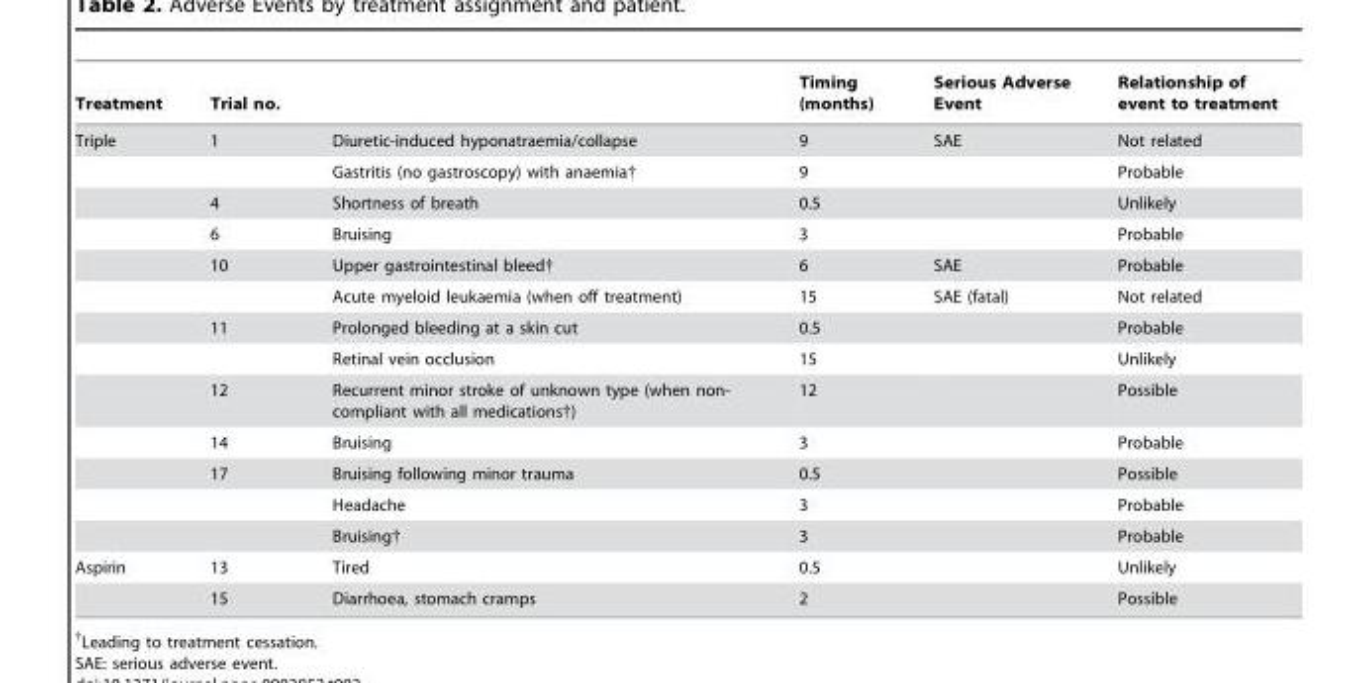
<table><thead><tr><td rowspan="2">Treatment Triple</td><td colspan="2">Trial no.</td><td rowspan="2">Timing (months) 9</td><td rowspan="2">Serious Adverse Event SAE</td><td rowspan="2">Relationship of event to treatment Not related</td></tr><tr><td>1</td><td>Diuretic-induced hyponatraemia/collapse</td></tr></thead><tbody><tr><td></td><td></td><td>Gastritis (no gastroscopy) with anaemia†</td><td>9</td><td></td><td>Probable</td></tr><tr><td></td><td>4</td><td>Shortness of breath</td><td>0.5</td><td></td><td>Unlikely</td></tr><tr><td></td><td>6</td><td>Bruising</td><td>3</td><td></td><td>Probable</td></tr><tr><td></td><td>10</td><td>Upper gastrointestinal bleed†</td><td>6</td><td>SAE</td><td>Probable</td></tr><tr><td></td><td></td><td>Acute myeloid leukaemia (when off treatment)</td><td>15</td><td>SAE (fatal)</td><td>Not related</td></tr><tr><td></td><td>11</td><td>Prolonged bleeding at a skin cut</td><td>0.5</td><td></td><td>Probable</td></tr><tr><td></td><td></td><td>Retinal vein occlusion</td><td>15</td><td></td><td>Unlikely</td></tr><tr><td></td><td>12</td><td>Recurrent minor stroke of unknown type (when non- compliant with all medications†)</td><td>12</td><td></td><td>Possible</td></tr><tr><td></td><td>14</td><td>Bruising</td><td>3</td><td></td><td>Probable</td></tr><tr><td></td><td>17</td><td>Bruising following minor trauma</td><td>0.5</td><td></td><td>Possible</td></tr><tr><td></td><td></td><td>Headache</td><td>3</td><td></td><td>Probable</td></tr><tr><td></td><td></td><td>Bruising†</td><td>3</td><td></td><td>Probable</td></tr><tr><td rowspan="2">Aspirin</td><td>13</td><td>Tired</td><td>0.5</td><td></td><td>Unlikely</td></tr><tr><td>15</td><td>Diarrhoea, stomach cramps</td><td>2</td><td></td><td>Possible</td></tr></tbody></table>